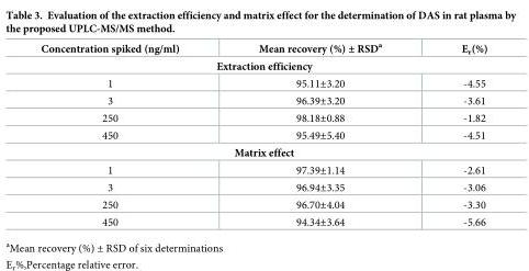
<table><thead><tr><td>Concentration spiked (ng/ml)</td><td>Mean recovery (%) ± RSD<sup>a</sup></td><td>E<sub>r</sub>(%)</td></tr></thead><tbody><tr><td colspan="3">Extraction efficiency</td></tr><tr><td>1</td><td>95.11±3.20</td><td>-4.55</td></tr><tr><td>3</td><td>96.39±3.20</td><td>-3.61</td></tr><tr><td>250</td><td>98.18±0.88</td><td>-1.82</td></tr><tr><td>450</td><td>95.49±5.40</td><td>-4.51</td></tr><tr><td colspan="3">Matrix effect</td></tr><tr><td>1</td><td>97.39±1.14</td><td>-2.61</td></tr><tr><td>3</td><td>96.94±3.35</td><td>-3.06</td></tr><tr><td>250</td><td>96.70±4.04</td><td>-3.30</td></tr><tr><td>450</td><td>94.34±3.64</td><td>-5.66</td></tr></tbody></table>